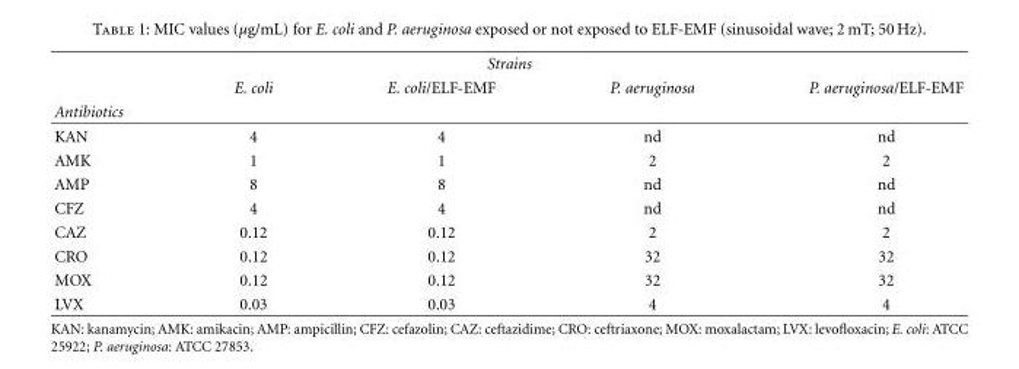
<table><thead><tr><td colspan="5">Strains</td></tr><tr><td rowspan="2">Antibiotics</td><td rowspan="2">E. coli</td><td rowspan="2">E. coli/ELF-EMF</td><td rowspan="2">P. aeruginosa</td><td rowspan="2">P. aeruginosa/ELF-EMF</td></tr><tr></tr></thead><tbody><tr><td>KAN</td><td>4</td><td>4</td><td>nd</td><td>nd</td></tr><tr><td>AMK</td><td>1</td><td>1</td><td>2</td><td>2</td></tr><tr><td>AMP</td><td>8</td><td>8</td><td>nd</td><td>nd</td></tr><tr><td>CFZ</td><td>4</td><td>4</td><td>nd</td><td>nd</td></tr><tr><td>CAZ</td><td>0.12</td><td>0.12</td><td>2</td><td>2</td></tr><tr><td>CRO</td><td>0.12</td><td>0.12</td><td>32</td><td>32</td></tr><tr><td>MOX</td><td>0.12</td><td>0.12</td><td>32</td><td>32</td></tr><tr><td>LVX</td><td>0.03</td><td>0.03</td><td>4</td><td>4</td></tr></tbody></table>